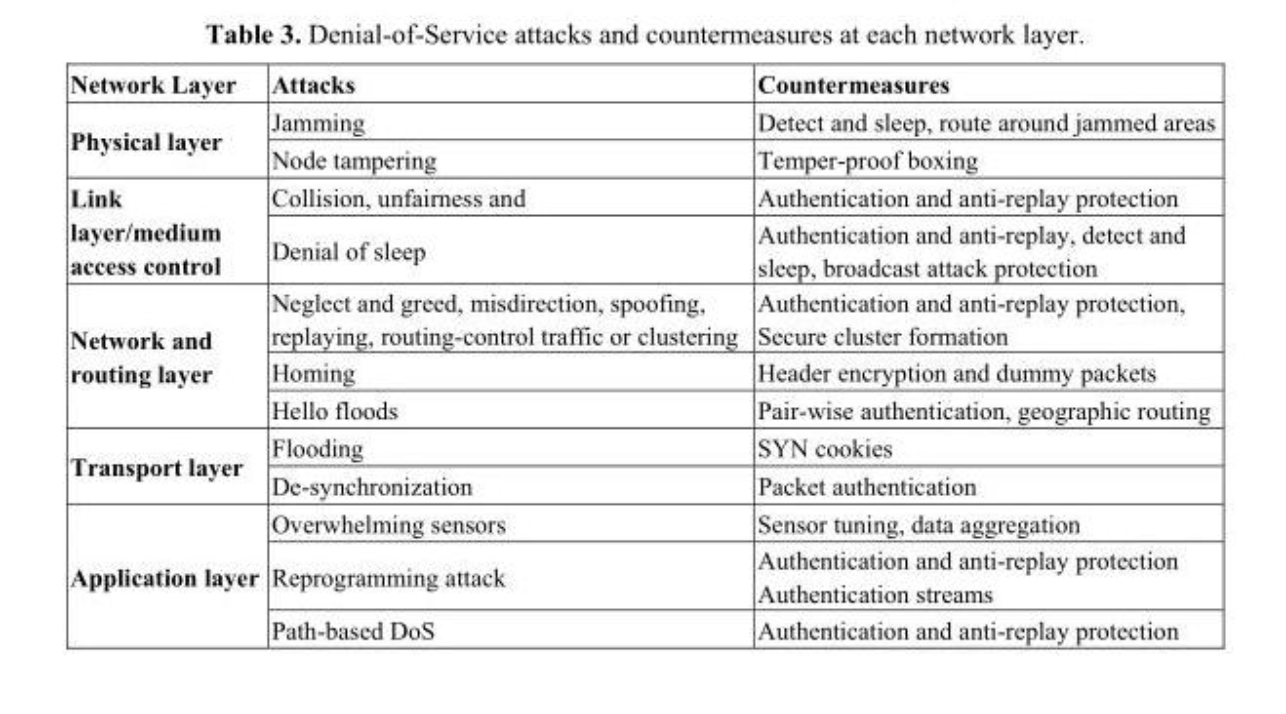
<table><thead><tr><td>Network Layer</td><td>Attacks</td><td>Countermeasures</td></tr></thead><tbody><tr><td rowspan="2">Physical layer</td><td>Jamming</td><td>Detect and sleep, route around jammed areas</td></tr><tr><td>Node tampering</td><td>Temper-proof boxing</td></tr><tr><td rowspan="2">Link layer/medium access control</td><td>Collision, unfairness and</td><td>Authentication and anti-replay protection</td></tr><tr><td>Denial of sleep</td><td>Authentication and anti-replay, detect and sleep, broadcast attack protection</td></tr><tr><td rowspan="3">Network and routing layer</td><td>Neglect and greed, misdirection, spoofing, replaying, routing-control traffic or clustering</td><td>Authentication and anti-replay protection, Secure cluster formation</td></tr><tr><td>Homing</td><td>Header encryption and dummy packets</td></tr><tr><td>Hello floods</td><td>Pair-wise authentication, geographic routing</td></tr><tr><td rowspan="2">Transport layer</td><td>Flooding</td><td>SYN cookies</td></tr><tr><td>De-synchronization</td><td>Packet authentication</td></tr><tr><td rowspan="3">Application layer</td><td>Overwhelming sensors</td><td>Sensor tuning, data aggregation</td></tr><tr><td>Reprogramming attack</td><td>Authentication and anti-replay protection Authentication streams</td></tr><tr><td>Path-based DoS</td><td>Authentication and anti-replay protection</td></tr></tbody></table>